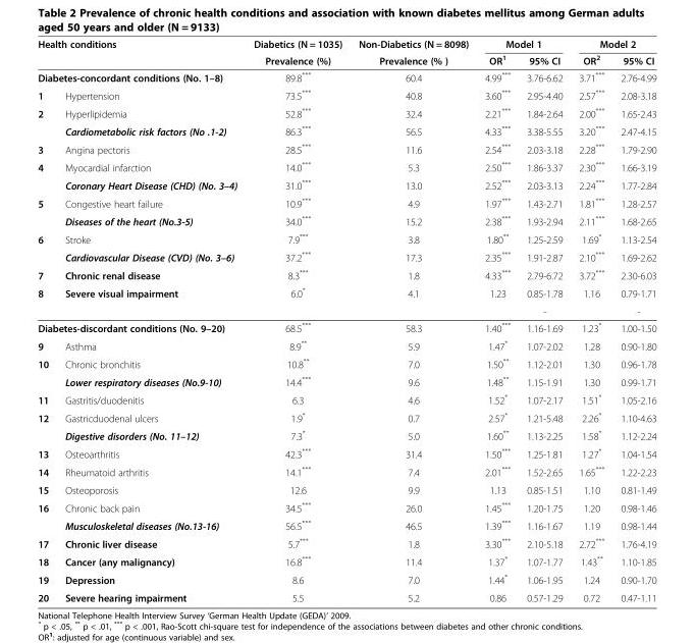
<table><thead><tr><td rowspan="3" colspan="2">Health conditions Diabetes-concordant conditions (No. 1–8)</td><td rowspan="4">Diabetics (N = 1035) Prevalence (%) 89.8*** 73.5***</td><td rowspan="4">Non-Diabetics (N = 8098) Prevalence (% ) 60.4 40.8</td><td colspan="2">Model 1</td><td colspan="2">Model 2</td></tr><tr><td rowspan="3">OR<sup>1</sup> 4.99*** 3.60***</td><td rowspan="3">95% CI 3.76-6.62 2.95-4.40</td><td rowspan="3">OR2 3.71*** 2.57***</td><td rowspan="3">95% CI 2.76-4.99 2.08-3.18</td></tr><tr></tr><tr><td>1</td><td>Hypertension</td></tr></thead><tbody><tr><td rowspan="2">2</td><td>Hyperlipidemia</td><td>52.8***</td><td>32.4</td><td>2.21***</td><td>1.84-2.64</td><td>2.00***</td><td>1.65-2.43</td></tr><tr><td>Cardiometabolic risk factors (No .1-2)</td><td>86.3***</td><td>56.5</td><td>4.33***</td><td>3.38-5.55</td><td>3.20***</td><td>2.47-4.15</td></tr><tr><td>3</td><td>Angina pectoris</td><td>28.5***</td><td>11.6</td><td>2.54***</td><td>2.03-3.18</td><td>2.28***</td><td>1.79-2.90</td></tr><tr><td rowspan="2">4</td><td>Myocardial infarction</td><td>14.0***</td><td>5.3</td><td>2.50***</td><td>1.86-3.37</td><td>2.30***</td><td>1.66-3.19</td></tr><tr><td>Coronary Heart Disease (CHD) (No. 3–4)</td><td>31.0***</td><td>13.0</td><td>2.52***</td><td>2.03-3.13</td><td>2.24***</td><td>1.77-2.84</td></tr><tr><td rowspan="2">5</td><td>Congestive heart failure</td><td>10.9***</td><td>4.9</td><td>1.97***</td><td>1.43-2.71</td><td>1.81***</td><td>1.28-2.57</td></tr><tr><td>Diseases of the heart (No.3-5)</td><td>34.0***</td><td>15.2</td><td>2.38***</td><td>1.93-2.94</td><td>2.11***</td><td>1.68-2.65</td></tr><tr><td rowspan="2">6</td><td>Stroke</td><td>7.9***</td><td>3.8</td><td>1.80**</td><td>1.25-2.59</td><td>1.69*</td><td>1.13-2.54</td></tr><tr><td>Cardiovascular Disease (CVD) (No. 3–6)</td><td>37.2***</td><td>17.3</td><td>2.35***</td><td>1.91-2.87</td><td>2.10***</td><td>1.69-2.62</td></tr><tr><td>7</td><td>Chronic renal disease</td><td>8.3***</td><td>1.8</td><td>4.33***</td><td>2.79-6.72</td><td>3.72***</td><td>2.30-6.03</td></tr><tr><td rowspan="2">8</td><td>Severe visual impairment</td><td>6.0*</td><td>4.1</td><td>1.23</td><td>0.85-1.78</td><td>1.16</td><td>0.79-1.71</td></tr><tr><td></td><td></td><td></td><td></td><td>-</td><td></td><td>-</td></tr><tr><td colspan="2">Diabetes-discordant conditions (No. 9–20)</td><td>68.5***</td><td>58.3</td><td>1.40***</td><td>1.16-1.69</td><td>1.23*</td><td>1.00-1.50</td></tr><tr><td>9</td><td>Asthma</td><td>8.9**</td><td>5.9</td><td>1.47*</td><td>1.07-2.02</td><td>1.28</td><td>0.90-1.80</td></tr><tr><td rowspan="2">10</td><td>Chronic bronchitis</td><td>10.8**</td><td>7.0</td><td>1.50**</td><td>1.12-2.01</td><td>1.30</td><td>0.96-1.78</td></tr><tr><td>Lower respiratory diseases (No.9-10)</td><td>14.4***</td><td>9.6</td><td>1.48**</td><td>1.15-1.91</td><td>1.30</td><td>0.99-1.71</td></tr><tr><td>11</td><td>Gastritis/duodenitis</td><td>6.3</td><td>4.6</td><td>1.52*</td><td>1.07-2.17</td><td>1.51*</td><td>1.05-2.16</td></tr><tr><td rowspan="2">12</td><td>Gastricduodenal ulcers</td><td>1.9*</td><td>0.7</td><td>2.57*</td><td>1.21-5.48</td><td>2.26*</td><td>1.10-4.63</td></tr><tr><td>Digestive disorders (No. 11–12)</td><td>7.3*</td><td>5.0</td><td>1.60**</td><td>1.13-2.25</td><td>1.58*</td><td>1.12-2.24</td></tr><tr><td>13</td><td>Osteoarthritis</td><td>42.3***</td><td>31.4</td><td>1.50***</td><td>1.25-1.81</td><td>1.27*</td><td>1.04-1.54</td></tr><tr><td>14</td><td>Rheumatoid arthritis</td><td>14.1***</td><td>7.4</td><td>2.01***</td><td>1.52-2.65</td><td>1.65***</td><td>1.22-2.23</td></tr><tr><td>15</td><td>Osteoporosis</td><td>12.6</td><td>9.9</td><td>1.13</td><td>0.85-1.51</td><td>1.10</td><td>0.81-1.49</td></tr><tr><td rowspan="2">16</td><td>Chronic back pain</td><td>34.5***</td><td>26.0</td><td>1.45***</td><td>1.20-1.75</td><td>1.20</td><td>0.98-1.46</td></tr><tr><td>Musculoskeletal diseases (No.13-16)</td><td>56.5***</td><td>46.5</td><td>1.39***</td><td>1.16-1.67</td><td>1.19</td><td>0.98-1.44</td></tr><tr><td>17</td><td>Chronic liver disease</td><td>5.7***</td><td>1.8</td><td>3.30***</td><td>2.10-5.18</td><td>2.72***</td><td>1.76-4.19</td></tr><tr><td>18</td><td>Cancer (any malignancy)</td><td>16.8***</td><td>11.4</td><td>1.37*</td><td>1.07-1.77</td><td>1.43**</td><td>1.10-1.85</td></tr><tr><td>19</td><td>Depression</td><td>8.6</td><td>7.0</td><td>1.44*</td><td>1.06-1.95</td><td>1.24</td><td>0.90-1.70</td></tr><tr><td>20</td><td>Severe hearing impairment</td><td>5.5</td><td>5.2</td><td>0.86</td><td>0.57-1.29</td><td>0.72</td><td>0.47-1.11</td></tr></tbody></table>